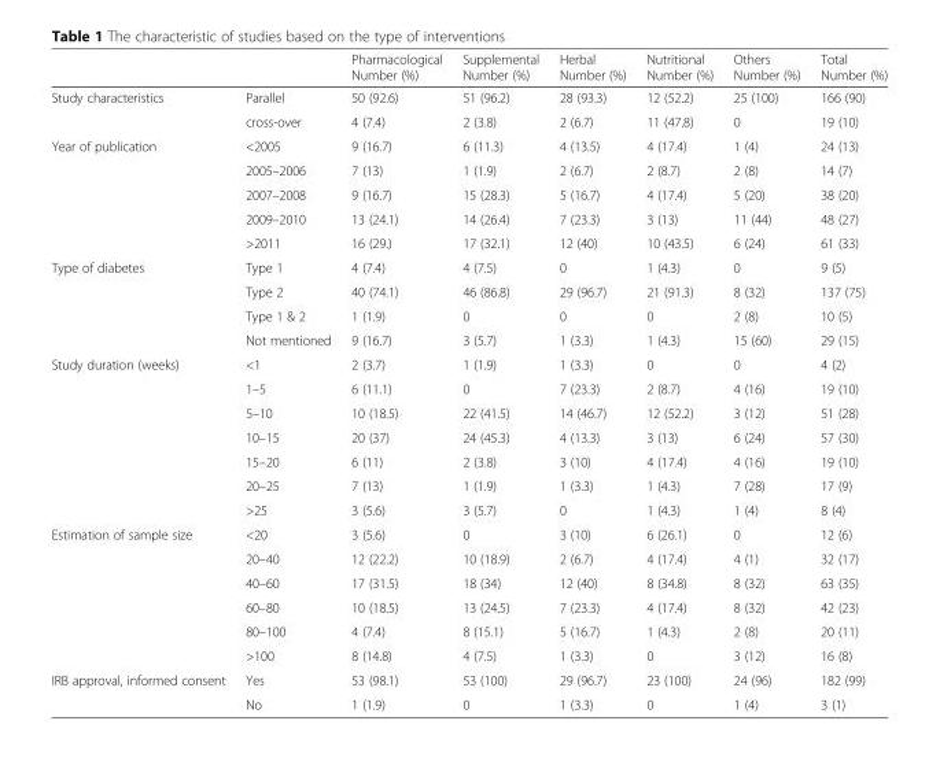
<table><thead><tr><td></td><td></td><td>Pharmacological Number (%)</td><td>Supplemental Number (%)</td><td>Herbal Number (%)</td><td>Nutritional Number (%)</td><td>Others Number (%)</td><td>Total Number (%)</td></tr></thead><tbody><tr><td rowspan="2">Study characteristics</td><td>Parallel</td><td>50 (92.6)</td><td>51 (96.2)</td><td>28 (93.3)</td><td>12 (52.2)</td><td>25 (100)</td><td>166 (90)</td></tr><tr><td>cross-over</td><td>4 (7.4)</td><td>2 (3.8)</td><td>2 (6.7)</td><td>11 (47.8)</td><td>0</td><td>19 (10)</td></tr><tr><td rowspan="5">Year of publication</td><td>&lt;2005</td><td>9 (16.7)</td><td>6 (11.3)</td><td>4 (13.5)</td><td>4 (17.4)</td><td>1 (4)</td><td>24 (13)</td></tr><tr><td>2005–2006</td><td>7 (13)</td><td>1 (1.9)</td><td>2 (6.7)</td><td>2 (8.7)</td><td>2 (8)</td><td>14 (7)</td></tr><tr><td>2007–2008</td><td>9 (16.7)</td><td>15 (28.3)</td><td>5 (16.7)</td><td>4 (17.4)</td><td>5 (20)</td><td>38 (20)</td></tr><tr><td>2009–2010</td><td>13 (24.1)</td><td>14 (26.4)</td><td>7 (23.3)</td><td>3 (13)</td><td>11 (44)</td><td>48 (27)</td></tr><tr><td>&gt;2011</td><td>16 (29.)</td><td>17 (32.1)</td><td>12 (40)</td><td>10 (43.5)</td><td>6 (24)</td><td>61 (33)</td></tr><tr><td rowspan="4">Type of diabetes</td><td>Type 1</td><td>4 (7.4)</td><td>4 (7.5)</td><td>0</td><td>1 (4.3)</td><td>0</td><td>9 (5)</td></tr><tr><td>Type 2</td><td>40 (74.1)</td><td>46 (86.8)</td><td>29 (96.7)</td><td>21 (91.3)</td><td>8 (32)</td><td>137 (75)</td></tr><tr><td>Type 1 &amp; 2</td><td>1 (1.9)</td><td>0</td><td>0</td><td>0</td><td>2 (8)</td><td>10 (5)</td></tr><tr><td>Not mentioned</td><td>9 (16.7)</td><td>3 (5.7)</td><td>1 (3.3)</td><td>1 (4.3)</td><td>15 (60)</td><td>29 (15)</td></tr><tr><td rowspan="7">Study duration (weeks)</td><td>&lt;1</td><td>2 (3.7)</td><td>1 (1.9)</td><td>1 (3.3)</td><td>0</td><td>0</td><td>4 (2)</td></tr><tr><td>1–5</td><td>6 (11.1)</td><td>0</td><td>7 (23.3)</td><td>2 (8.7)</td><td>4 (16)</td><td>19 (10)</td></tr><tr><td>5–10</td><td>10 (18.5)</td><td>22 (41.5)</td><td>14 (46.7)</td><td>12 (52.2)</td><td>3 (12)</td><td>51 (28)</td></tr><tr><td>10–15</td><td>20 (37)</td><td>24 (45.3)</td><td>4 (13.3)</td><td>3 (13)</td><td>6 (24)</td><td>57 (30)</td></tr><tr><td>15–20</td><td>6 (11)</td><td>2 (3.8)</td><td>3 (10)</td><td>4 (17.4)</td><td>4 (16)</td><td>19 (10)</td></tr><tr><td>20–25</td><td>7 (13)</td><td>1 (1.9)</td><td>1 (3.3)</td><td>1 (4.3)</td><td>7 (28)</td><td>17 (9)</td></tr><tr><td>&gt;25</td><td>3 (5.6)</td><td>3 (5.7)</td><td>0</td><td>1 (4.3)</td><td>1 (4)</td><td>8 (4)</td></tr><tr><td rowspan="6">Estimation of sample size</td><td>&lt;20</td><td>3 (5.6)</td><td>0</td><td>3 (10)</td><td>6 (26.1)</td><td>0</td><td>12 (6)</td></tr><tr><td>20–40</td><td>12 (22.2)</td><td>10 (18.9)</td><td>2 (6.7)</td><td>4 (17.4)</td><td>4 (1)</td><td>32 (17)</td></tr><tr><td>40–60</td><td>17 (31.5)</td><td>18 (34)</td><td>12 (40)</td><td>8 (34.8)</td><td>8 (32)</td><td>63 (35)</td></tr><tr><td>60–80</td><td>10 (18.5)</td><td>13 (24.5)</td><td>7 (23.3)</td><td>4 (17.4)</td><td>8 (32)</td><td>42 (23)</td></tr><tr><td>80–100</td><td>4 (7.4)</td><td>8 (15.1)</td><td>5 (16.7)</td><td>1 (4.3)</td><td>2 (8)</td><td>20 (11)</td></tr><tr><td>&gt;100</td><td>8 (14.8)</td><td>4 (7.5)</td><td>1 (3.3)</td><td>0</td><td>3 (12)</td><td>16 (8)</td></tr><tr><td rowspan="2">IRB approval, informed consent</td><td>Yes</td><td>53 (98.1)</td><td>53 (100)</td><td>29 (96.7)</td><td>23 (100)</td><td>24 (96)</td><td>182 (99)</td></tr><tr><td>No</td><td>1 (1.9)</td><td>0</td><td>1 (3.3)</td><td>0</td><td>1 (4)</td><td>3 (1)</td></tr></tbody></table>